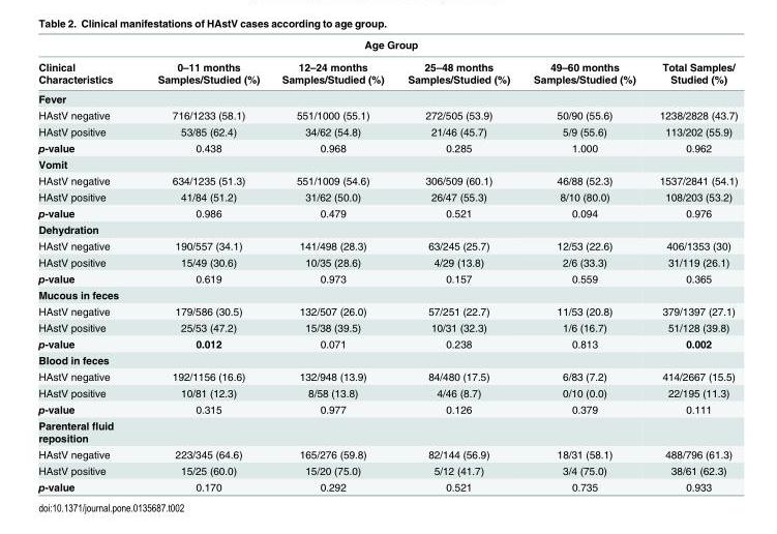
<table><thead><tr><td colspan="6">Age Group</td></tr><tr><td>Clinical Characteristics</td><td>0–11 months Samples/Studied (%)</td><td>12–24 months Samples/Studied (%)</td><td>25–48 months Samples/Studied (%)</td><td>49–60 months Samples/Studied (%)</td><td>Total Samples/ Studied (%)</td></tr></thead><tbody><tr><td colspan="6">Fever</td></tr><tr><td>HAstV negative</td><td>716/1233 (58.1)</td><td>551/1000 (55.1)</td><td>272/505 (53.9)</td><td>50/90 (55.6)</td><td>1238/2828 (43.7)</td></tr><tr><td>HAstV positive</td><td>53/85 (62.4)</td><td>34/62 (54.8)</td><td>21/46 (45.7)</td><td>5/9 (55.6)</td><td>113/202 (55.9)</td></tr><tr><td>p-value</td><td>0.438</td><td>0.968</td><td>0.285</td><td>1.000</td><td>0.962</td></tr><tr><td colspan="6">Vomit</td></tr><tr><td>HAstV negative</td><td>634/1235 (51.3)</td><td>551/1009 (54.6)</td><td>306/509 (60.1)</td><td>46/88 (52.3)</td><td>1537/2841 (54.1)</td></tr><tr><td>HAstV positive</td><td>41/84 (51.2)</td><td>31/62 (50.0)</td><td>26/47 (55.3)</td><td>8/10 (80.0)</td><td>108/203 (53.2)</td></tr><tr><td>p-value</td><td>0.986</td><td>0.479</td><td>0.521</td><td>0.094</td><td>0.976</td></tr><tr><td colspan="6">Dehydration</td></tr><tr><td>HAstV negative</td><td>190/557 (34.1)</td><td>141/498 (28.3)</td><td>63/245 (25.7)</td><td>12/53 (22.6)</td><td>406/1353 (30)</td></tr><tr><td>HAstV positive</td><td>15/49 (30.6)</td><td>10/35 (28.6)</td><td>4/29 (13.8)</td><td>2/6 (33.3)</td><td>31/119 (26.1)</td></tr><tr><td>p-value</td><td>0.619</td><td>0.973</td><td>0.157</td><td>0.559</td><td>0.365</td></tr><tr><td colspan="6">Mucous in feces</td></tr><tr><td>HAstV negative</td><td>179/586 (30.5)</td><td>132/507 (26.0)</td><td>57/251 (22.7)</td><td>11/53 (20.8)</td><td>379/1397 (27.1)</td></tr><tr><td>HAstV positive</td><td>25/53 (47.2)</td><td>15/38 (39.5)</td><td>10/31 (32.3)</td><td>1/6 (16.7)</td><td>51/128 (39.8)</td></tr><tr><td>p-value</td><td>0.012</td><td>0.071</td><td>0.238</td><td>0.813</td><td>0.002</td></tr><tr><td colspan="6">Blood in feces</td></tr><tr><td>HAstV negative</td><td>192/1156 (16.6)</td><td>132/948 (13.9)</td><td>84/480 (17.5)</td><td>6/83 (7.2)</td><td>414/2667 (15.5)</td></tr><tr><td>HAstV positive</td><td>10/81 (12.3)</td><td>8/58 (13.8)</td><td>4/46 (8.7)</td><td>0/10 (0.0)</td><td>22/195 (11.3)</td></tr><tr><td>p-value</td><td>0.315</td><td>0.977</td><td>0.126</td><td>0.379</td><td>0.111</td></tr><tr><td colspan="6">Parenteral fluid reposition</td></tr><tr><td>HAstV negative</td><td>223/345 (64.6)</td><td>165/276 (59.8)</td><td>82/144 (56.9)</td><td>18/31 (58.1)</td><td>488/796 (61.3)</td></tr><tr><td>HAstV positive</td><td>15/25 (60.0)</td><td>15/20 (75.0)</td><td>5/12 (41.7)</td><td>3/4 (75.0)</td><td>38/61 (62.3)</td></tr><tr><td>p-value</td><td>0.170</td><td>0.292</td><td>0.521</td><td>0.735</td><td>0.933</td></tr></tbody></table>